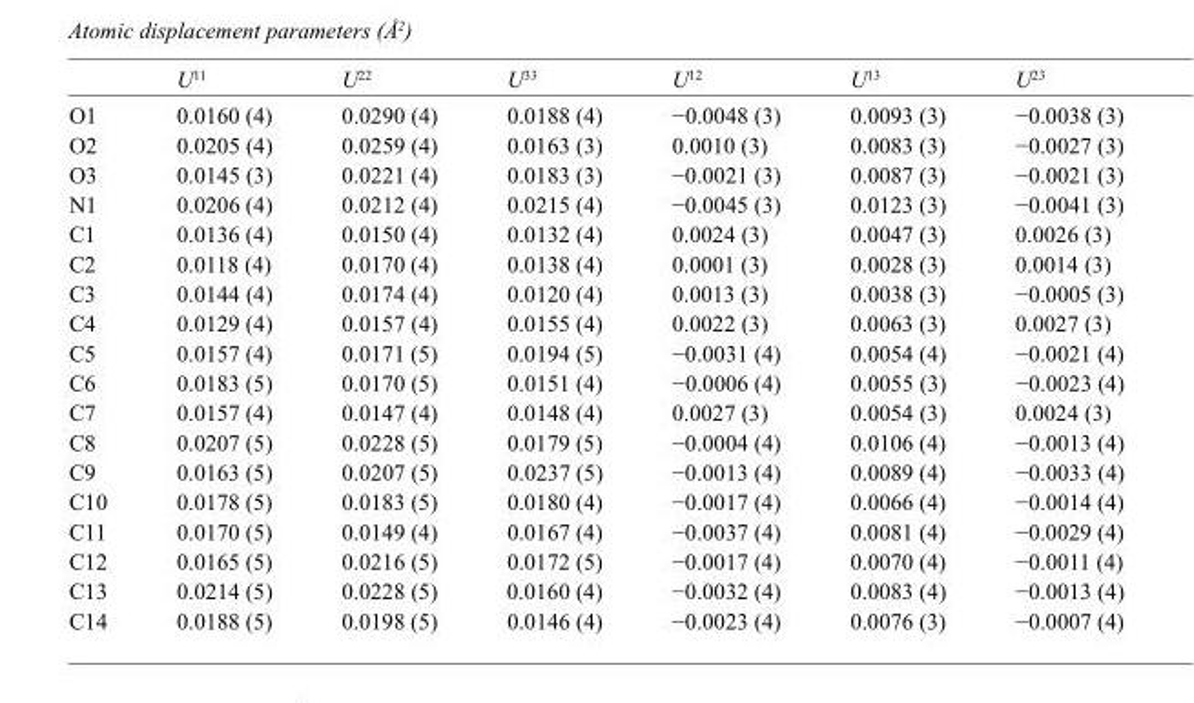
<table><thead><tr><td></td><td>U<sup>11</sup></td><td>U<sup>22</sup></td><td>U<sup>33</sup></td><td>U<sup>12</sup></td><td>U<sup>13</sup></td><td>U<sup>23</sup></td></tr></thead><tbody><tr><td>O1</td><td>0.0160 (4)</td><td>0.0290 (4)</td><td>0.0188 (4)</td><td>−0.0048 (3)</td><td>0.0093 (3)</td><td>−0.0038 (3)</td></tr><tr><td>O2</td><td>0.0205 (4)</td><td>0.0259 (4)</td><td>0.0163 (3)</td><td>0.0010 (3)</td><td>0.0083 (3)</td><td>−0.0027 (3)</td></tr><tr><td>O3</td><td>0.0145 (3)</td><td>0.0221 (4)</td><td>0.0183 (3)</td><td>−0.0021 (3)</td><td>0.0087 (3)</td><td>−0.0021 (3)</td></tr><tr><td>N1</td><td>0.0206 (4)</td><td>0.0212 (4)</td><td>0.0215 (4)</td><td>−0.0045 (3)</td><td>0.0123 (3)</td><td>−0.0041 (3)</td></tr><tr><td>C1</td><td>0.0136 (4)</td><td>0.0150 (4)</td><td>0.0132 (4)</td><td>0.0024 (3)</td><td>0.0047 (3)</td><td>0.0026 (3)</td></tr><tr><td>C2</td><td>0.0118 (4)</td><td>0.0170 (4)</td><td>0.0138 (4)</td><td>0.0001 (3)</td><td>0.0028 (3)</td><td>0.0014 (3)</td></tr><tr><td>C3</td><td>0.0144 (4)</td><td>0.0174 (4)</td><td>0.0120 (4)</td><td>0.0013 (3)</td><td>0.0038 (3)</td><td>−0.0005 (3)</td></tr><tr><td>C4</td><td>0.0129 (4)</td><td>0.0157 (4)</td><td>0.0155 (4)</td><td>0.0022 (3)</td><td>0.0063 (3)</td><td>0.0027 (3)</td></tr><tr><td>C5</td><td>0.0157 (4)</td><td>0.0171 (5)</td><td>0.0194 (5)</td><td>−0.0031 (4)</td><td>0.0054 (4)</td><td>−0.0021 (4)</td></tr><tr><td>C6</td><td>0.0183 (5)</td><td>0.0170 (5)</td><td>0.0151 (4)</td><td>−0.0006 (4)</td><td>0.0055 (3)</td><td>−0.0023 (4)</td></tr><tr><td>C7</td><td>0.0157 (4)</td><td>0.0147 (4)</td><td>0.0148 (4)</td><td>0.0027 (3)</td><td>0.0054 (3)</td><td>0.0024 (3)</td></tr><tr><td>C8</td><td>0.0207 (5)</td><td>0.0228 (5)</td><td>0.0179 (5)</td><td>−0.0004 (4)</td><td>0.0106 (4)</td><td>−0.0013 (4)</td></tr><tr><td>C9</td><td>0.0163 (5)</td><td>0.0207 (5)</td><td>0.0237 (5)</td><td>−0.0013 (4)</td><td>0.0089 (4)</td><td>−0.0033 (4)</td></tr><tr><td>C10</td><td>0.0178 (5)</td><td>0.0183 (5)</td><td>0.0180 (4)</td><td>−0.0017 (4)</td><td>0.0066 (4)</td><td>−0.0014 (4)</td></tr><tr><td>C11</td><td>0.0170 (5)</td><td>0.0149 (4)</td><td>0.0167 (4)</td><td>−0.0037 (4)</td><td>0.0081 (4)</td><td>−0.0029 (4)</td></tr><tr><td>C12</td><td>0.0165 (5)</td><td>0.0216 (5)</td><td>0.0172 (5)</td><td>−0.0017 (4)</td><td>0.0070 (4)</td><td>−0.0011 (4)</td></tr><tr><td>C13</td><td>0.0214 (5)</td><td>0.0228 (5)</td><td>0.0160 (4)</td><td>−0.0032 (4)</td><td>0.0083 (4)</td><td>−0.0013 (4)</td></tr><tr><td>C14</td><td>0.0188 (5)</td><td>0.0198 (5)</td><td>0.0146 (4)</td><td>−0.0023 (4)</td><td>0.0076 (3)</td><td>−0.0007 (4)</td></tr></tbody></table>